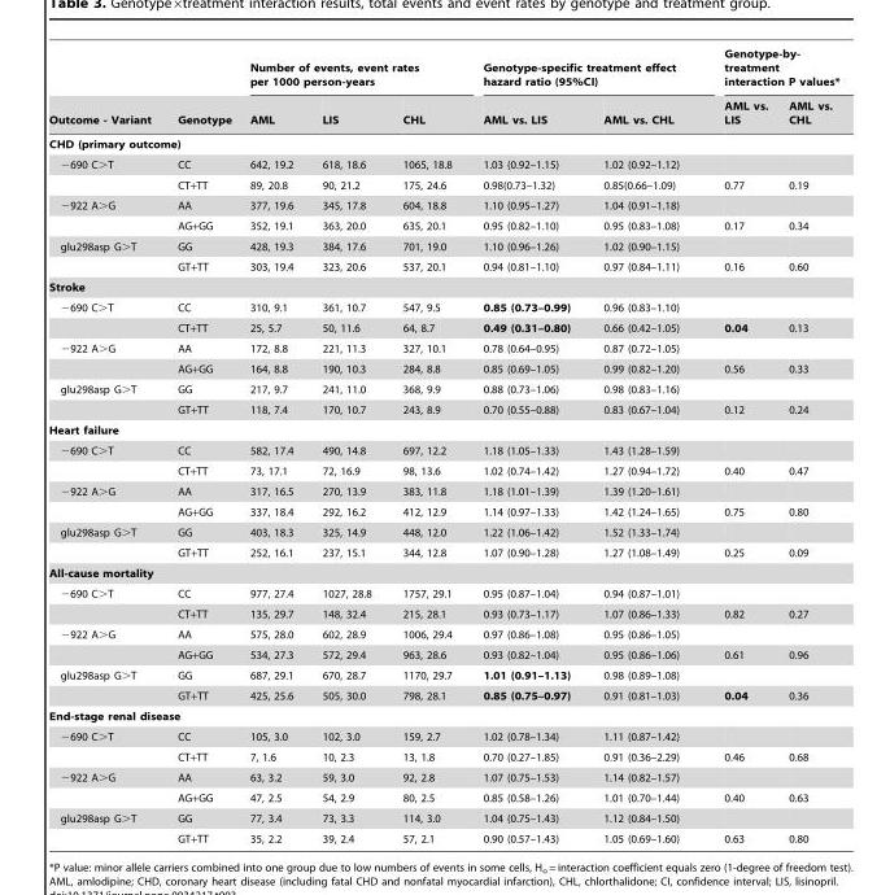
<table><thead><tr><td rowspan="2">Outcome - Variant</td><td rowspan="2">Genotype</td><td colspan="3">Number of events, event rates per 1000 person-years</td><td colspan="2">Genotype-specific treatment effect hazard ratio (95%CI)</td><td colspan="2">Genotype-by- treatment interaction P values*</td></tr><tr><td>AML</td><td>LIS</td><td>CHL</td><td>AML vs. LIS</td><td>AML vs. CHL</td><td>AML vs. LIS</td><td>AML vs. CHL</td></tr></thead><tbody><tr><td colspan="9">CHD (primary outcome)</td></tr><tr><td rowspan="2">−690 C&gt;T</td><td>CC</td><td>642, 19.2</td><td>618, 18.6</td><td>1065, 18.8</td><td>1.03 (0.92–1.15)</td><td>1.02 (0.92–1.12)</td><td></td><td></td></tr><tr><td>CT+TT</td><td>89, 20.8</td><td>90, 21.2</td><td>175, 24.6</td><td>0.98(0.73–1.32)</td><td>0.85(0.66–1.09)</td><td>0.77</td><td>0.19</td></tr><tr><td rowspan="2">−922 A&gt;G</td><td>AA</td><td>377, 19.6</td><td>345, 17.8</td><td>604, 18.8</td><td>1.10 (0.95–1.27)</td><td>1.04 (0.91–1.18)</td><td></td><td></td></tr><tr><td>AG+GG</td><td>352, 19.1</td><td>363, 20.0</td><td>635, 20.1</td><td>0.95 (0.82–1.10)</td><td>0.95 (0.83–1.08)</td><td>0.17</td><td>0.34</td></tr><tr><td rowspan="2">glu298asp G&gt;T</td><td>GG</td><td>428, 19.3</td><td>384, 17.6</td><td>701, 19.0</td><td>1.10 (0.96–1.26)</td><td>1.02 (0.90–1.15)</td><td></td><td></td></tr><tr><td>GT+TT</td><td>303, 19.4</td><td>323, 20.6</td><td>537, 20.1</td><td>0.94 (0.81–1.10)</td><td>0.97 (0.84–1.11)</td><td>0.16</td><td>0.60</td></tr><tr><td colspan="9">Stroke</td></tr><tr><td rowspan="2">−690 C&gt;T</td><td>CC</td><td>310, 9.1</td><td>361, 10.7</td><td>547, 9.5</td><td>0.85 (0.73–0.99)</td><td>0.96 (0.83–1.10)</td><td></td><td></td></tr><tr><td>CT+TT</td><td>25, 5.7</td><td>50, 11.6</td><td>64, 8.7</td><td>0.49 (0.31–0.80)</td><td>0.66 (0.42–1.05)</td><td>0.04</td><td>0.13</td></tr><tr><td rowspan="2">−922 A&gt;G</td><td>AA</td><td>172, 8.8</td><td>221, 11.3</td><td>327, 10.1</td><td>0.78 (0.64–0.95)</td><td>0.87 (0.72–1.05)</td><td></td><td></td></tr><tr><td>AG+GG</td><td>164, 8.8</td><td>190, 10.3</td><td>284, 8.8</td><td>0.85 (0.69–1.05)</td><td>0.99 (0.82–1.20)</td><td>0.56</td><td>0.33</td></tr><tr><td rowspan="2">glu298asp G&gt;T</td><td>GG</td><td>217, 9.7</td><td>241, 11.0</td><td>368, 9.9</td><td>0.88 (0.73–1.06)</td><td>0.98 (0.83–1.16)</td><td></td><td></td></tr><tr><td>GT+TT</td><td>118, 7.4</td><td>170, 10.7</td><td>243, 8.9</td><td>0.70 (0.55–0.88)</td><td>0.83 (0.67–1.04)</td><td>0.12</td><td>0.24</td></tr><tr><td colspan="9">Heart failure</td></tr><tr><td rowspan="2">−690 C&gt;T</td><td>CC</td><td>582, 17.4</td><td>490, 14.8</td><td>697, 12.2</td><td>1.18 (1.05–1.33)</td><td>1.43 (1.28–1.59)</td><td></td><td></td></tr><tr><td>CT+TT</td><td>73, 17.1</td><td>72, 16.9</td><td>98, 13.6</td><td>1.02 (0.74–1.42)</td><td>1.27 (0.94–1.72)</td><td>0.40</td><td>0.47</td></tr><tr><td rowspan="2">−922 A&gt;G</td><td>AA</td><td>317, 16.5</td><td>270, 13.9</td><td>383, 11.8</td><td>1.18 (1.01–1.39)</td><td>1.39 (1.20–1.61)</td><td></td><td></td></tr><tr><td>AG+GG</td><td>337, 18.4</td><td>292, 16.2</td><td>412, 12.9</td><td>1.14 (0.97–1.33)</td><td>1.42 (1.24–1.65)</td><td>0.75</td><td>0.80</td></tr><tr><td rowspan="2">glu298asp G&gt;T</td><td>GG</td><td>403, 18.3</td><td>325, 14.9</td><td>448, 12.0</td><td>1.22 (1.06–1.42)</td><td>1.52 (1.33–1.74)</td><td></td><td></td></tr><tr><td>GT+TT</td><td>252, 16.1</td><td>237, 15.1</td><td>344, 12.8</td><td>1.07 (0.90–1.28)</td><td>1.27 (1.08–1.49)</td><td>0.25</td><td>0.09</td></tr><tr><td colspan="9">All-cause mortality</td></tr><tr><td rowspan="2">−690 C&gt;T</td><td>CC</td><td>977, 27.4</td><td>1027, 28.8</td><td>1757, 29.1</td><td>0.95 (0.87–1.04)</td><td>0.94 (0.87–1.01)</td><td></td><td></td></tr><tr><td>CT+TT</td><td>135, 29.7</td><td>148, 32.4</td><td>215, 28.1</td><td>0.93 (0.73–1.17)</td><td>1.07 (0.86–1.33)</td><td>0.82</td><td>0.27</td></tr><tr><td rowspan="2">−922 A&gt;G</td><td>AA</td><td>575, 28.0</td><td>602, 28.9</td><td>1006, 29.4</td><td>0.97 (0.86–1.08)</td><td>0.95 (0.86–1.05)</td><td></td><td></td></tr><tr><td>AG+GG</td><td>534, 27.3</td><td>572, 29.4</td><td>963, 28.6</td><td>0.93 (0.82–1.04)</td><td>0.95 (0.86–1.06)</td><td>0.61</td><td>0.96</td></tr><tr><td rowspan="2">glu298asp G&gt;T</td><td>GG</td><td>687, 29.1</td><td>670, 28.7</td><td>1170, 29.7</td><td>1.01 (0.91–1.13)</td><td>0.98 (0.89–1.08)</td><td></td><td></td></tr><tr><td>GT+TT</td><td>425, 25.6</td><td>505, 30.0</td><td>798, 28.1</td><td>0.85 (0.75–0.97)</td><td>0.91 (0.81–1.03)</td><td>0.04</td><td>0.36</td></tr><tr><td colspan="9">End-stage renal disease</td></tr><tr><td rowspan="2">−690 C&gt;T</td><td>CC</td><td>105, 3.0</td><td>102, 3.0</td><td>159, 2.7</td><td>1.02 (0.78–1.34)</td><td>1.11 (0.87–1.42)</td><td></td><td></td></tr><tr><td>CT+TT</td><td>7, 1.6</td><td>10, 2.3</td><td>13, 1.8</td><td>0.70 (0.27–1.85)</td><td>0.91 (0.36–2.29)</td><td>0.46</td><td>0.68</td></tr><tr><td rowspan="2">−922 A&gt;G</td><td>AA</td><td>63, 3.2</td><td>59, 3.0</td><td>92, 2.8</td><td>1.07 (0.75–1.53)</td><td>1.14 (0.82–1.57)</td><td></td><td></td></tr><tr><td>AG+GG</td><td>47, 2.5</td><td>54, 2.9</td><td>80, 2.5</td><td>0.85 (0.58–1.26)</td><td>1.01 (0.70–1.44)</td><td>0.40</td><td>0.63</td></tr><tr><td rowspan="2">glu298asp G&gt;T</td><td>GG</td><td>77, 3.4</td><td>73, 3.3</td><td>114, 3.0</td><td>1.04 (0.75–1.43)</td><td>1.12 (0.84–1.50)</td><td></td><td></td></tr><tr><td>GT+TT</td><td>35, 2.2</td><td>39, 2.4</td><td>57, 2.1</td><td>0.90 (0.57–1.43)</td><td>1.05 (0.69–1.60)</td><td>0.63</td><td>0.80</td></tr></tbody></table>